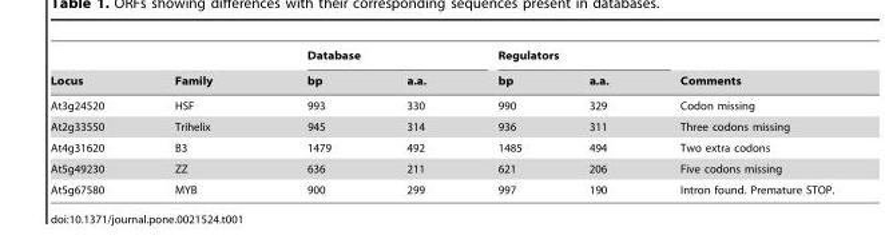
<table><thead><tr><td rowspan="2">Locus</td><td rowspan="2">Family</td><td colspan="2">Database</td><td colspan="2">Regulators</td><td rowspan="2">Comments</td></tr><tr><td>bp</td><td>a.a.</td><td>bp</td><td>a.a.</td></tr></thead><tbody><tr><td>At3g24520</td><td>HSF</td><td>993</td><td>330</td><td>990</td><td>329</td><td>Codon missing</td></tr><tr><td>At2g33550</td><td>Trihelix</td><td>945</td><td>314</td><td>936</td><td>311</td><td>Three codons missing</td></tr><tr><td>At4g31620</td><td>B3</td><td>1479</td><td>492</td><td>1485</td><td>494</td><td>Two extra codons</td></tr><tr><td>At5g49230</td><td>ZZ</td><td>636</td><td>211</td><td>621</td><td>206</td><td>Five codons missing</td></tr><tr><td>At5g67580</td><td>MYB</td><td>900</td><td>299</td><td>997</td><td>190</td><td>Intron found. Premature STOP.</td></tr></tbody></table>